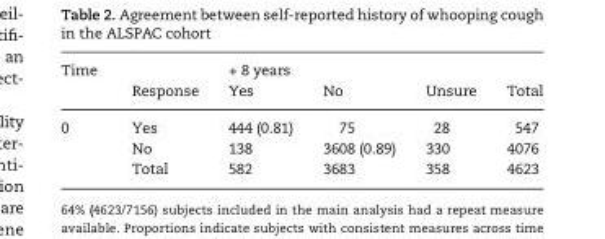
<table><thead><tr><td rowspan="2">Time</td><td rowspan="2">Response</td><td colspan="3">+ 8 years</td><td rowspan="2">Total</td></tr><tr><td>Yes</td><td>No</td><td>Unsure</td></tr></thead><tbody><tr><td rowspan="3">0</td><td>Yes</td><td>444 (0.81)</td><td>75</td><td>28</td><td>547</td></tr><tr><td>No</td><td>138</td><td>3608 (0.89)</td><td>330</td><td>4076</td></tr><tr><td>Total</td><td>582</td><td>3683</td><td>358</td><td>4623</td></tr></tbody></table>